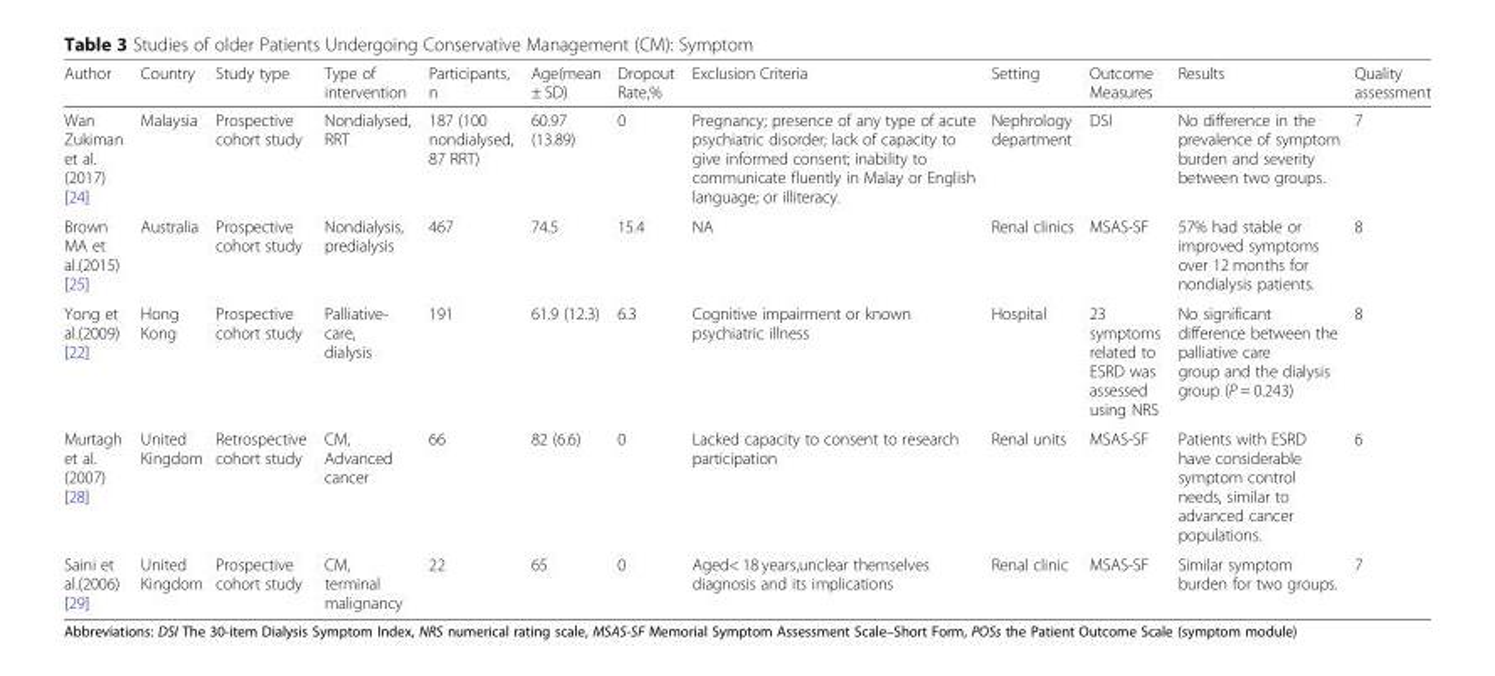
<table><thead><tr><td>Author</td><td>Country</td><td>Study type</td><td>Type of intervention</td><td>Participants, n</td><td>Age(mean ± SD)</td><td>Dropout Rate,%</td><td>Exclusion Criteria</td><td>Setting</td><td>Outcome Measures</td><td>Results</td><td>Quality assessment</td></tr></thead><tbody><tr><td>Wan Zukiman et al. (2017) [24]</td><td>Malaysia</td><td>Prospective cohort study</td><td>Nondialysed, RRT</td><td>187 (100 nondialysed, 87 RRT)</td><td>60.97 (13.89)</td><td>0</td><td>Pregnancy; presence of any type of acute psychiatric disorder; lack of capacity to give informed consent; inability to communicate fluently in Malay or English language; or illiteracy.</td><td>Nephrology department</td><td>DSI</td><td>No difference in the prevalence of symptom burden and severity between two groups.</td><td>7</td></tr><tr><td>Brown MA et al.(2015) [25]</td><td>Australia</td><td>Prospective cohort study</td><td>Nondialysis, predialysis</td><td>467</td><td>74.5</td><td>15.4</td><td>NA</td><td>Renal clinics</td><td>MSAS-SF</td><td>57% had stable or improved symptoms over 12 months for nondialysis patients.</td><td>8</td></tr><tr><td>Yong et al.(2009) [22]</td><td>Hong Kong</td><td>Prospective cohort study</td><td>Palliative- care, dialysis</td><td>191</td><td>61.9 (12.3)</td><td>6.3</td><td>Cognitive impairment or known psychiatric illness</td><td>Hospital</td><td>23 symptoms related to ESRD was assessed using NRS</td><td>No significant difference between the palliative care group and the dialysis group (P = 0.243)</td><td>8</td></tr><tr><td>Murtagh et al. (2007) [28]</td><td>United Kingdom</td><td>Retrospective cohort study</td><td>CM, Advanced cancer</td><td>66</td><td>82 (6.6)</td><td>0</td><td>Lacked capacity to consent to research participation</td><td>Renal units</td><td>MSAS-SF</td><td>Patients with ESRD have considerable symptom control needs, similar to advanced cancer populations.</td><td>6</td></tr><tr><td>Saini et al.(2006) [29]</td><td>United Kingdom</td><td>Prospective cohort study</td><td>CM, terminal malignancy</td><td>22</td><td>65</td><td>0</td><td>Aged&lt; 18 years,unclear themselves diagnosis and its implications</td><td>Renal clinic</td><td>MSAS-SF</td><td>Similar symptom burden for two groups.</td><td>7</td></tr></tbody></table>